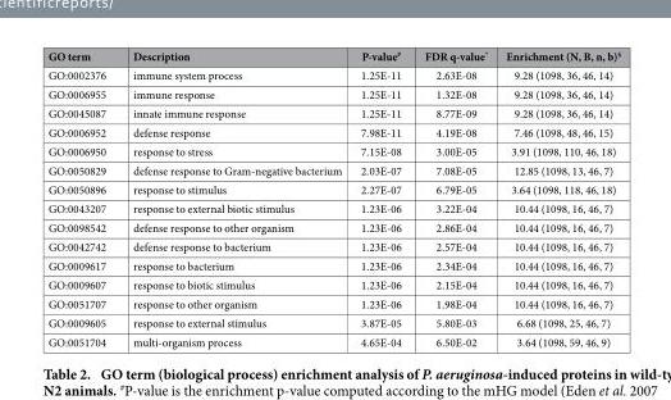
<table><thead><tr><td>GO term</td><td>Description</td><td>P-value<sup>#</sup></td><td>FDR q-value*</td><td>Enrichment (N, B, n, b)<sup>§</sup></td></tr></thead><tbody><tr><td>GO:0002376</td><td>immune system process</td><td>1.25E-11</td><td>2.63E-08</td><td>9.28 (1098, 36, 46, 14)</td></tr><tr><td>GO:0006955</td><td>immune response</td><td>1.25E-11</td><td>1.32E-08</td><td>9.28 (1098, 36, 46, 14)</td></tr><tr><td>GO:0045087</td><td>innate immune response</td><td>1.25E-11</td><td>8.77E-09</td><td>9.28 (1098, 36, 46, 14)</td></tr><tr><td>GO:0006952</td><td>defense response</td><td>7.98E-11</td><td>4.19E-08</td><td>7.46 (1098, 48, 46, 15)</td></tr><tr><td>GO:0006950</td><td>response to stress</td><td>7.15E-08</td><td>3.00E-05</td><td>3.91 (1098, 110, 46, 18)</td></tr><tr><td>GO:0050829</td><td>defense response to Gram-negative bacterium</td><td>2.03E-07</td><td>7.08E-05</td><td>12.85 (1098, 13, 46, 7)</td></tr><tr><td>GO:0050896</td><td>response to stimulus</td><td>2.27E-07</td><td>6.79E-05</td><td>3.64 (1098, 118, 46, 18)</td></tr><tr><td>GO:0043207</td><td>response to external biotic stimulus</td><td>1.23E-06</td><td>3.22E-04</td><td>10.44 (1098, 16, 46, 7)</td></tr><tr><td>GO:0098542</td><td>defense response to other organism</td><td>1.23E-06</td><td>2.86E-04</td><td>10.44 (1098, 16, 46, 7)</td></tr><tr><td>GO:0042742</td><td>defense response to bacterium</td><td>1.23E-06</td><td>2.57E-04</td><td>10.44 (1098, 16, 46, 7)</td></tr><tr><td>GO:0009617</td><td>response to bacterium</td><td>1.23E-06</td><td>2.34E-04</td><td>10.44 (1098, 16, 46, 7)</td></tr><tr><td>GO:0009607</td><td>response to biotic stimulus</td><td>1.23E-06</td><td>2.15E-04</td><td>10.44 (1098, 16, 46, 7)</td></tr><tr><td>GO:0051707</td><td>response to other organism</td><td>1.23E-06</td><td>1.98E-04</td><td>10.44 (1098, 16, 46, 7)</td></tr><tr><td>GO:0009605</td><td>response to external stimulus</td><td>3.87E-05</td><td>5.80E-03</td><td>6.68 (1098, 25, 46, 7)</td></tr><tr><td>GO:0051704</td><td>multi-organism process</td><td>4.65E-04</td><td>6.50E-02</td><td>3.64 (1098, 59, 46, 9)</td></tr></tbody></table>